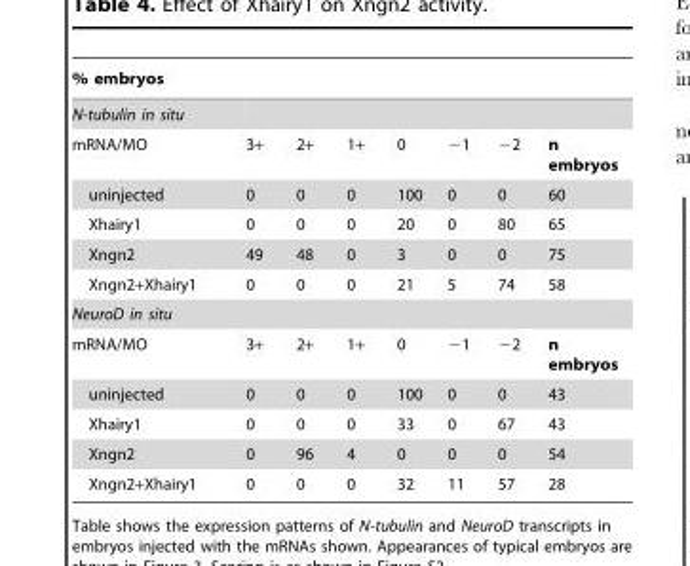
<table><thead><tr><td colspan="8">% embryos</td></tr><tr><td rowspan="2">N-tubulin in situ mRNA/MO</td><td colspan="7"></td></tr><tr><td>3+</td><td>2+</td><td>1+</td><td>0</td><td>−1</td><td>−2</td><td>n embryos</td></tr></thead><tbody><tr><td>uninjected</td><td>0</td><td>0</td><td>0</td><td>100</td><td>0</td><td>0</td><td>60</td></tr><tr><td>Xhairy1</td><td>0</td><td>0</td><td>0</td><td>20</td><td>0</td><td>80</td><td>65</td></tr><tr><td>Xngn2</td><td>49</td><td>48</td><td>0</td><td>3</td><td>0</td><td>0</td><td>75</td></tr><tr><td>Xngn2+Xhairy1</td><td>0</td><td>0</td><td>0</td><td>21</td><td>5</td><td>74</td><td>58</td></tr><tr><td colspan="8">NeuroD in situ</td></tr><tr><td>mRNA/MO</td><td>3+</td><td>2+</td><td>1+</td><td>0</td><td>−1</td><td>−2</td><td>n embryos</td></tr><tr><td>uninjected</td><td>0</td><td>0</td><td>0</td><td>100</td><td>0</td><td>0</td><td>43</td></tr><tr><td>Xhairy1</td><td>0</td><td>0</td><td>0</td><td>33</td><td>0</td><td>67</td><td>43</td></tr><tr><td>Xngn2</td><td>0</td><td>96</td><td>4</td><td>0</td><td>0</td><td>0</td><td>54</td></tr><tr><td>Xngn2+Xhairy1</td><td>0</td><td>0</td><td>0</td><td>32</td><td>11</td><td>57</td><td>28</td></tr></tbody></table>